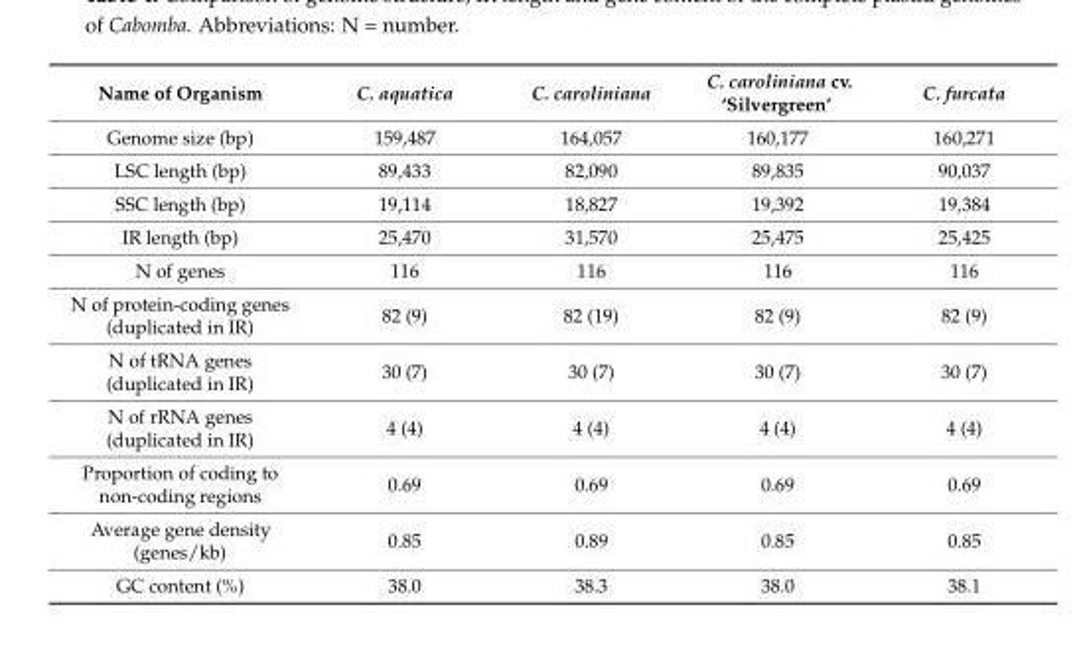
<table><thead><tr><td>Name of Organism</td><td>C. aquatica</td><td>C. caroliniana</td><td>C. caroliniana cv. ‘Silvergreen’</td><td>C. furcata</td></tr></thead><tbody><tr><td>Genome size (bp)</td><td>159,487</td><td>164,057</td><td>160,177</td><td>160,271</td></tr><tr><td>LSC length (bp)</td><td>89,433</td><td>82,090</td><td>89,835</td><td>90,037</td></tr><tr><td>SSC length (bp)</td><td>19,114</td><td>18,827</td><td>19,392</td><td>19,384</td></tr><tr><td>IR length (bp)</td><td>25,470</td><td>31,570</td><td>25,475</td><td>25,425</td></tr><tr><td>N of genes</td><td>116</td><td>116</td><td>116</td><td>116</td></tr><tr><td>N of protein-coding genes (duplicated in IR)</td><td>82 (9)</td><td>82 (19)</td><td>82 (9)</td><td>82 (9)</td></tr><tr><td>N of tRNA genes (duplicated in IR)</td><td>30 (7)</td><td>30 (7)</td><td>30 (7)</td><td>30 (7)</td></tr><tr><td>N of rRNA genes (duplicated in IR)</td><td>4 (4)</td><td>4 (4)</td><td>4 (4)</td><td>4 (4)</td></tr><tr><td>Proportion of coding to non-coding regions</td><td>0.69</td><td>0.69</td><td>0.69</td><td>0.69</td></tr><tr><td>Average gene density (genes/kb)</td><td>0.85</td><td>0.89</td><td>0.85</td><td>0.85</td></tr><tr><td>GC content (%)</td><td>38.0</td><td>38.3</td><td>38.0</td><td>38.1</td></tr></tbody></table>